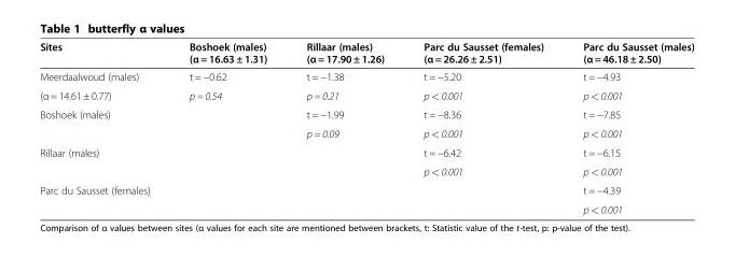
<table><thead><tr><td>Sites</td><td>Boshoek (males) (α = 16.63 ± 1.31)</td><td>Rillaar (males) (α = 17.90 ± 1.26)</td><td>Parc du Sausset (females) (α = 26.26 ± 2.51)</td><td>Parc du Sausset (males) (α = 46.18 ± 2.50)</td></tr></thead><tbody><tr><td>Meerdaalwoud (males)</td><td>t = −0.62</td><td>t = −1.38</td><td>t = −5.20</td><td>t = −4.93</td></tr><tr><td>(α = 14.61 ± 0.77)</td><td>p = 0.54</td><td>p = 0.21</td><td>p &lt; 0.001</td><td>p &lt; 0.001</td></tr><tr><td rowspan="2">Boshoek (males)</td><td></td><td>t = −1.99</td><td>t = −8.36</td><td>t = −7.85</td></tr><tr><td></td><td>p = 0.09</td><td>p &lt; 0.001</td><td>p &lt; 0.001</td></tr><tr><td rowspan="2">Rillaar (males)</td><td></td><td></td><td>t = −6.42</td><td>t = −6.15</td></tr><tr><td></td><td></td><td>p &lt; 0.001</td><td>p &lt; 0.001</td></tr><tr><td rowspan="2">Parc du Sausset (females)</td><td></td><td></td><td></td><td>t = −4.39</td></tr><tr><td></td><td></td><td></td><td>p &lt; 0.001</td></tr></tbody></table>